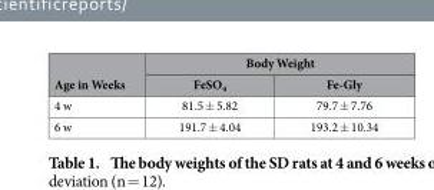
<table><thead><tr><td rowspan="2">Age in Weeks</td><td colspan="2">Body Weight</td></tr><tr><td>FeSO<sub>4</sub></td><td>Fe-Gly</td></tr></thead><tbody><tr><td>4 w</td><td>81.5 ± 5.82</td><td>79.7 ± 7.76</td></tr><tr><td>6 w</td><td>191.7 ± 4.04</td><td>193.2 ± 10.34</td></tr></tbody></table>